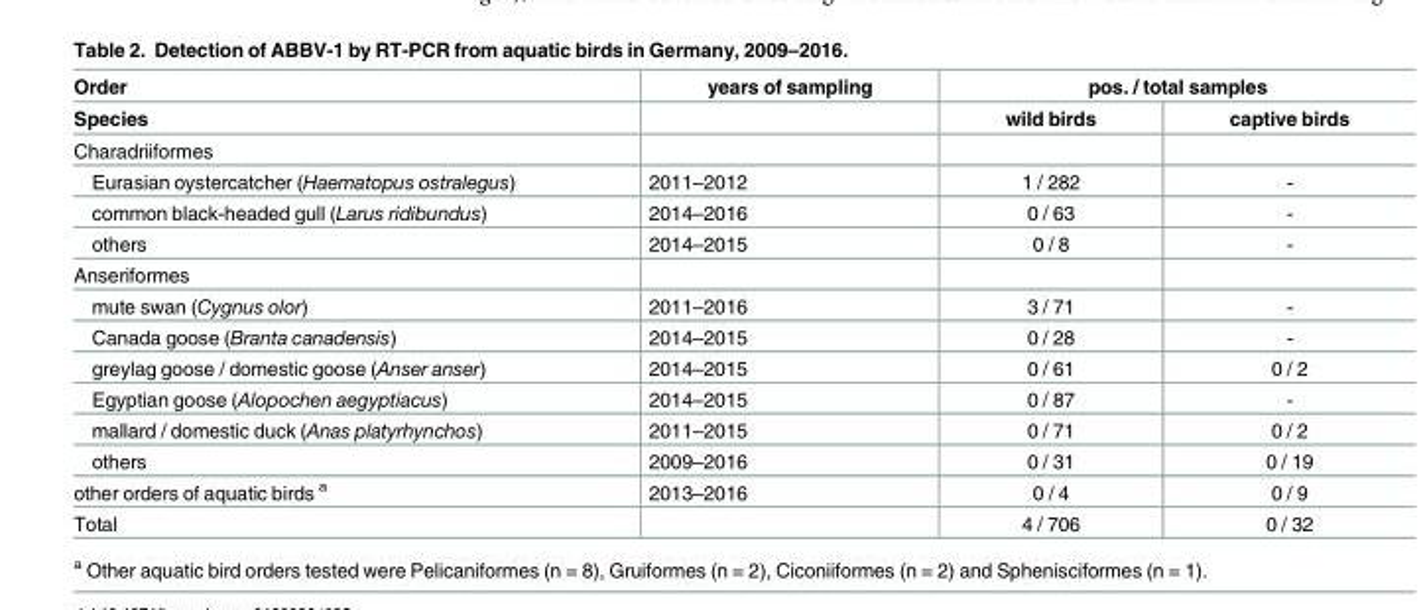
<table><thead><tr><td rowspan="2">Order Species</td><td rowspan="2">years of sampling</td><td colspan="2">pos. / total samples</td></tr><tr><td>wild birds</td><td>captive birds</td></tr></thead><tbody><tr><td colspan="4">Charadriiformes</td></tr><tr><td>Eurasian oystercatcher (Haematopus ostralegus)</td><td>2011–2012</td><td>1 / 282</td><td>-</td></tr><tr><td>common black-headed gull (Larus ridibundus)</td><td>2014–2016</td><td>0 / 63</td><td>-</td></tr><tr><td>others</td><td>2014–2015</td><td>0 / 8</td><td>-</td></tr><tr><td colspan="4">Anseriformes</td></tr><tr><td>mute swan (Cygnus olor)</td><td>2011–2016</td><td>3 / 71</td><td>-</td></tr><tr><td>Canada goose (Branta canadensis)</td><td>2014–2015</td><td>0 / 28</td><td>-</td></tr><tr><td>greylag goose / domestic goose (Anser anser)</td><td>2014–2015</td><td>0 / 61</td><td>0 / 2</td></tr><tr><td>Egyptian goose (Alopochen aegyptiacus)</td><td>2014–2015</td><td>0 / 87</td><td>-</td></tr><tr><td>mallard / domestic duck (Anas platyrhynchos)</td><td>2011–2015</td><td>0 / 71</td><td>0 / 2</td></tr><tr><td>others</td><td>2009–2016</td><td>0 / 31</td><td>0 / 19</td></tr><tr><td>other orders of aquatic birds <sup>a</sup></td><td>2013–2016</td><td>0 / 4</td><td>0 / 9</td></tr><tr><td>Total</td><td></td><td>4 / 706</td><td>0 / 32</td></tr></tbody></table>